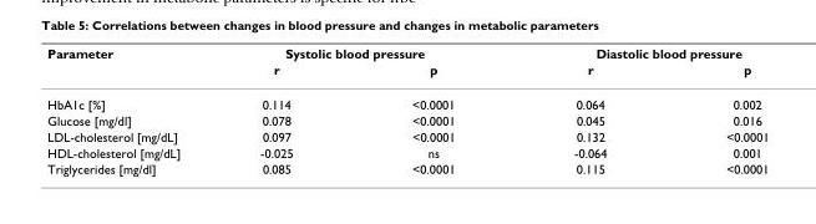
<table><thead><tr><td rowspan="2">Parameter</td><td colspan="2">Systolic blood pressure</td><td colspan="2">Diastolic blood pressure</td></tr><tr><td>r</td><td>p</td><td>r</td><td>p</td></tr></thead><tbody><tr><td>HbA1c [%]</td><td>0.114</td><td>&lt;0.0001</td><td>0.064</td><td>0.002</td></tr><tr><td>Glucose [mg/dl]</td><td>0.078</td><td>&lt;0.0001</td><td>0.045</td><td>0.016</td></tr><tr><td>LDL-cholesterol [mg/dL]</td><td>0.097</td><td>&lt;0.0001</td><td>0.132</td><td>&lt;0.0001</td></tr><tr><td>HDL-cholesterol [mg/dL]</td><td>-0.025</td><td>ns</td><td>-0.064</td><td>0.001</td></tr><tr><td>Triglycerides [mg/dl]</td><td>0.085</td><td>&lt;0.0001</td><td>0.115</td><td>&lt;0.0001</td></tr></tbody></table>